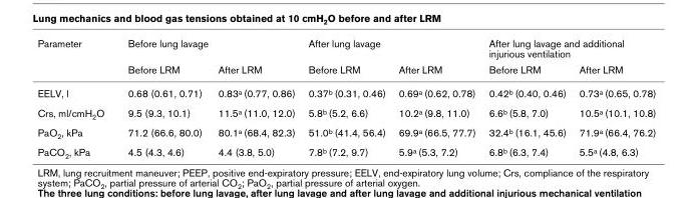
<table><thead><tr><td rowspan="2">Parameter</td><td colspan="2">Before lung lavage</td><td colspan="2">After lung lavage</td><td colspan="2">After lung lavage and additional injurious ventilation</td></tr><tr><td>Before LRM</td><td>After LRM</td><td>Before LRM</td><td>After LRM</td><td>Before LRM</td><td>After LRM</td></tr></thead><tbody><tr><td>EELV, l</td><td>0.68 (0.61, 0.71)</td><td>0.83<sup>a</sup> (0.77, 0.86)</td><td>0.37<sup>b</sup> (0.31, 0.46)</td><td>0.69<sup>a</sup> (0.62, 0.78)</td><td>0.42<sup>b</sup> (0.40, 0.46)</td><td>0.73<sup>a</sup> (0.65, 0.78)</td></tr><tr><td>Crs, ml/cmH<sub>2</sub>O</td><td>9.5 (9.3, 10.1)</td><td>11.5<sup>a</sup> (11.0, 12.0)</td><td>5.8<sup>b</sup> (5.2, 6.6)</td><td>10.2<sup>a</sup> (9.8, 11.0)</td><td>6.6<sup>b</sup> (5.8, 7.0)</td><td>10.5<sup>a</sup> (10.1, 10.8)</td></tr><tr><td>PaO<sub>2</sub>, kPa</td><td>71.2 (66.6, 80.0)</td><td>80.1<sup>a</sup> (68.4, 82.3)</td><td>51.0<sup>b</sup> (41.4, 56.4)</td><td>69.9<sup>a</sup> (66.5, 77.7)</td><td>32.4<sup>b</sup> (16.1, 45.6)</td><td>71.9<sup>a</sup> (66.4, 76.2)</td></tr><tr><td>PaCO<sub>2</sub>, kPa</td><td>4.5 (4.3, 4.6)</td><td>4.4 (3.8, 5.0)</td><td>7.8<sup>b</sup> (7.2, 9.7)</td><td>5.9<sup>a</sup> (5.3, 7.2)</td><td>6.8<sup>b</sup> (6.3, 7.4)</td><td>5.5<sup>a</sup> (4.8, 6.3)</td></tr></tbody></table>